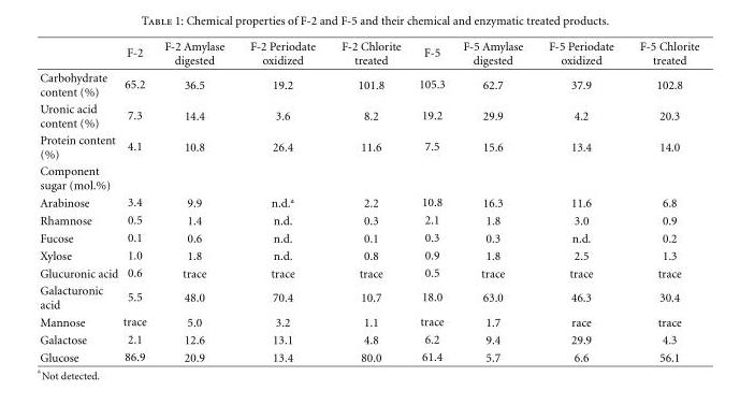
<table><thead><tr><td></td><td>F-2</td><td>F-2 Amylase digested</td><td>F-2 Periodate oxidized</td><td>F-2 Chlorite treated</td><td>F-5</td><td>F-5 Amylase digested</td><td>F-5 Periodate oxidized</td><td>F-5 Chlorite treated</td></tr></thead><tbody><tr><td>Carbohydrate content (%)</td><td>65.2</td><td>36.5</td><td>19.2</td><td>101.8</td><td>105.3</td><td>62.7</td><td>37.9</td><td>102.8</td></tr><tr><td>Uronic acid content (%)</td><td>7.3</td><td>14.4</td><td>3.6</td><td>8.2</td><td>19.2</td><td>29.9</td><td>4.2</td><td>20.3</td></tr><tr><td>Protein content (%)</td><td>4.1</td><td>10.8</td><td>26.4</td><td>11.6</td><td>7.5</td><td>15.6</td><td>13.4</td><td>14.0</td></tr><tr><td colspan="9">Component sugar (mol.%)</td></tr><tr><td>Arabinose</td><td>3.4</td><td>9.9</td><td>n.d.<sup>a</sup></td><td>2.2</td><td>10.8</td><td>16.3</td><td>11.6</td><td>6.8</td></tr><tr><td>Rhamnose</td><td>0.5</td><td>1.4</td><td>n.d.</td><td>0.3</td><td>2.1</td><td>1.8</td><td>3.0</td><td>0.9</td></tr><tr><td>Fucose</td><td>0.1</td><td>0.6</td><td>n.d.</td><td>0.1</td><td>0.3</td><td>0.3</td><td>n.d.</td><td>0.2</td></tr><tr><td>Xylose</td><td>1.0</td><td>1.8</td><td>n.d.</td><td>0.8</td><td>0.9</td><td>1.8</td><td>2.5</td><td>1.3</td></tr><tr><td>Glucuronic acid</td><td>0.6</td><td>trace</td><td>trace</td><td>trace</td><td>0.5</td><td>trace</td><td>trace</td><td>trace</td></tr><tr><td>Galacturonic acid</td><td>5.5</td><td>48.0</td><td>70.4</td><td>10.7</td><td>18.0</td><td>63.0</td><td>46.3</td><td>30.4</td></tr><tr><td>Mannose</td><td>trace</td><td>5.0</td><td>3.2</td><td>1.1</td><td>trace</td><td>1.7</td><td>race</td><td>trace</td></tr><tr><td>Galactose</td><td>2.1</td><td>12.6</td><td>13.1</td><td>4.8</td><td>6.2</td><td>9.4</td><td>29.9</td><td>4.3</td></tr><tr><td>Glucose</td><td>86.9</td><td>20.9</td><td>13.4</td><td>80.0</td><td>61.4</td><td>5.7</td><td>6.6</td><td>56.1</td></tr></tbody></table>